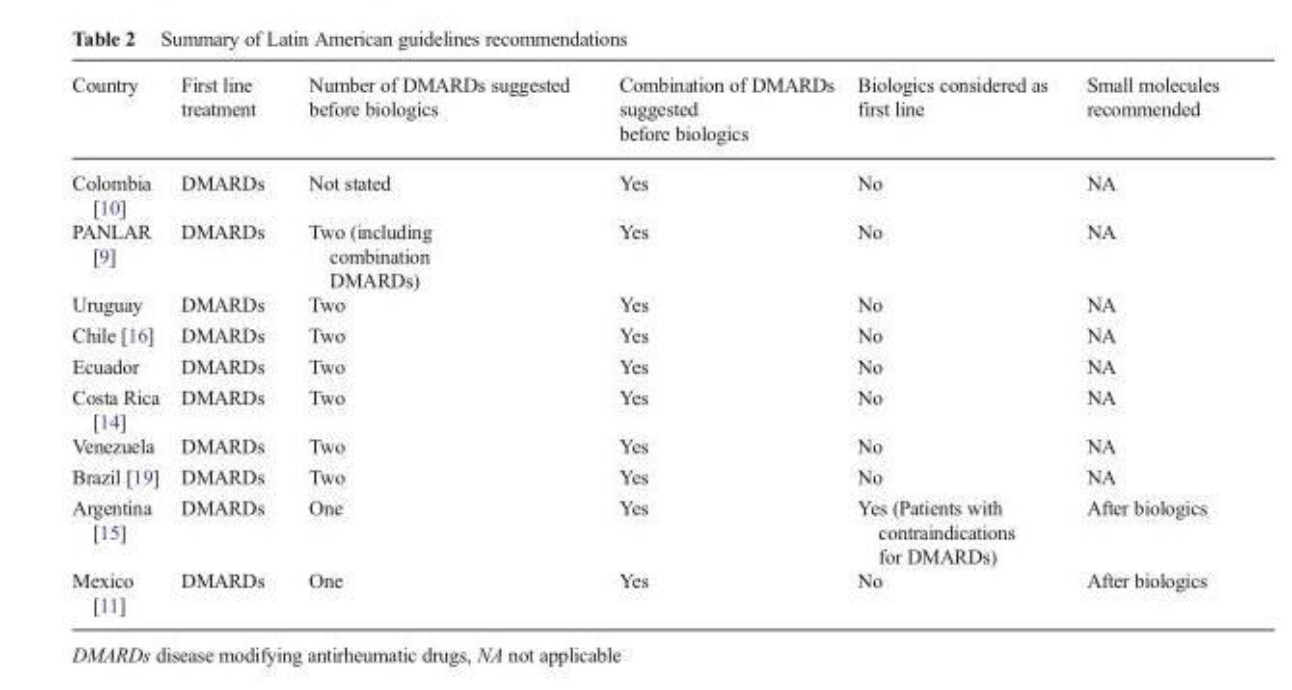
<table><thead><tr><td>Country</td><td>First line treatment</td><td>Number of DMARDs suggested before biologics</td><td>Combination of DMARDs suggested before biologics</td><td>Biologics considered as first line</td><td>Small molecules recommended</td></tr></thead><tbody><tr><td>Colombia [10]</td><td>DMARDs</td><td>Not stated</td><td>Yes</td><td>No</td><td>NA</td></tr><tr><td>PANLAR [9]</td><td>DMARDs</td><td>Two (including combination DMARDs)</td><td>Yes</td><td>No</td><td>NA</td></tr><tr><td>Uruguay</td><td>DMARDs</td><td>Two</td><td>Yes</td><td>No</td><td>NA</td></tr><tr><td>Chile [16]</td><td>DMARDs</td><td>Two</td><td>Yes</td><td>No</td><td>NA</td></tr><tr><td>Ecuador</td><td>DMARDs</td><td>Two</td><td>Yes</td><td>No</td><td>NA</td></tr><tr><td>Costa Rica [14]</td><td>DMARDs</td><td>Two</td><td>Yes</td><td>No</td><td>NA</td></tr><tr><td>Venezuela</td><td>DMARDs</td><td>Two</td><td>Yes</td><td>No</td><td>NA</td></tr><tr><td>Brazil [19]</td><td>DMARDs</td><td>Two</td><td>Yes</td><td>No</td><td>NA</td></tr><tr><td>Argentina [15]</td><td>DMARDs</td><td>One</td><td>Yes</td><td>Yes (Patients with contraindications for DMARDs)</td><td>After biologics</td></tr><tr><td>Mexico [11]</td><td>DMARDs</td><td>One</td><td>Yes</td><td>No</td><td>After biologics</td></tr></tbody></table>